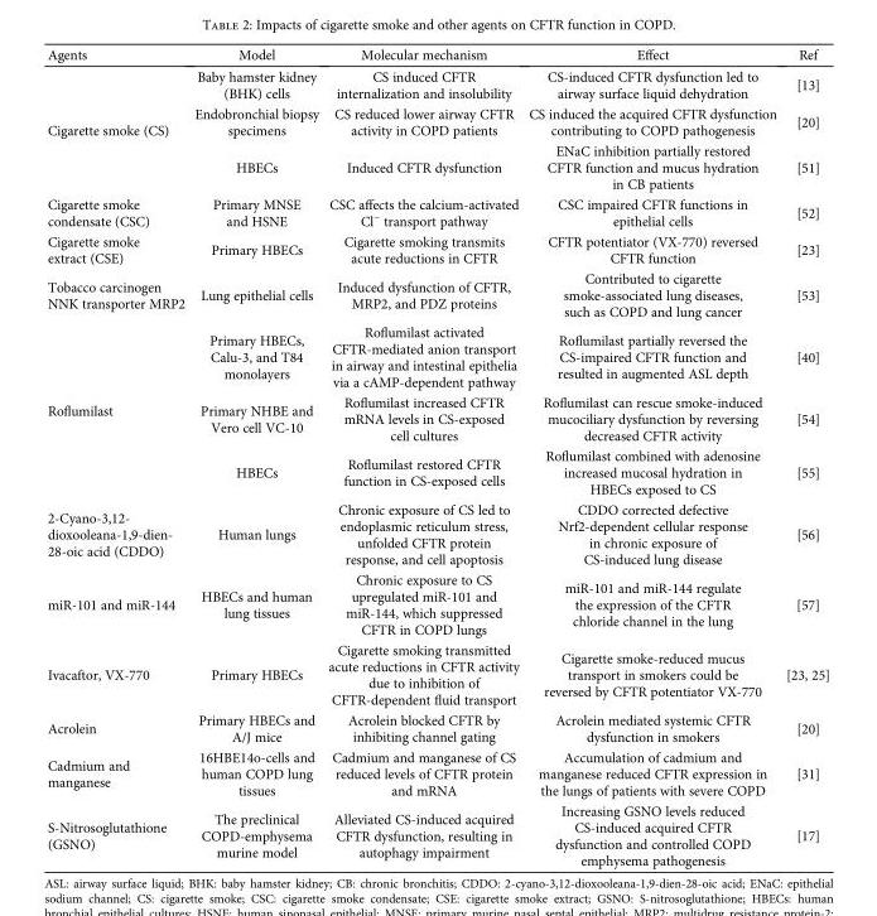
<table><thead><tr><td>Agents</td><td>Model</td><td>Molecular mechanism</td><td>Effect</td><td>Ref</td></tr></thead><tbody><tr><td rowspan="3">Cigarette smoke (CS)</td><td>Baby hamster kidney (BHK) cells</td><td>CS induced CFTR internalization and insolubility</td><td>CS-induced CFTR dysfunction led to airway surface liquid dehydration</td><td>[13]</td></tr><tr><td>Endobronchial biopsy specimens</td><td>CS reduced lower airway CFTR activity in COPD patients</td><td>CS induced the acquired CFTR dysfunction contributing to COPD pathogenesis</td><td>[20]</td></tr><tr><td>HBECs</td><td>Induced CFTR dysfunction</td><td>ENaC inhibition partially restored CFTR function and mucus hydration in CB patients</td><td>[51]</td></tr><tr><td>Cigarette smoke condensate (CSC)</td><td>Primary MNSE and HSNE</td><td>CSC affects the calcium-activated Cl<sup>−</sup> transport pathway</td><td>CSC impaired CFTR functions in epithelial cells</td><td>[52]</td></tr><tr><td>Cigarette smoke extract (CSE)</td><td>Primary HBECs</td><td>Cigarette smoking transmits acute reductions in CFTR</td><td>CFTR potentiator (VX-770) reversed CFTR function</td><td>[23]</td></tr><tr><td>Tobacco carcinogen NNK transporter MRP2</td><td>Lung epithelial cells</td><td>Induced dysfunction of CFTR, MRP2, and PDZ proteins</td><td>Contributed to cigarette smoke-associated lung diseases, such as COPD and lung cancer</td><td>[53]</td></tr><tr><td rowspan="3">Roflumilast</td><td>Primary HBECs, Calu-3, and T84 monolayers</td><td>Roflumilast activated CFTR-mediated anion transport in airway and intestinal epithelia via a cAMP-dependent pathway</td><td>Roflumilast partially reversed the CS-impaired CFTR function and resulted in augmented ASL depth</td><td>[40]</td></tr><tr><td>Primary NHBE and Vero cell VC-10</td><td>Roflumilast increased CFTR mRNA levels in CS-exposed cell cultures</td><td>Roflumilast can rescue smoke-induced mucociliary dysfunction by reversing decreased CFTR activity</td><td>[54]</td></tr><tr><td>HBECs</td><td>Roflumilast restored CFTR function in CS-exposed cells</td><td>Roflumilast combined with adenosine increased mucosal hydration in HBECs exposed to CS</td><td>[55]</td></tr><tr><td>2-Cyano-3,12- dioxooleana-1,9-dien- 28-oic acid (CDDO)</td><td>Human lungs</td><td>Chronic exposure of CS led to endoplasmic reticulum stress, unfolded CFTR protein response, and cell apoptosis</td><td>CDDO corrected defective Nrf2-dependent cellular response in chronic exposure of CS-induced lung disease</td><td>[56]</td></tr><tr><td>miR-101 and miR-144</td><td>HBECs and human lung tissues</td><td>Chronic exposure to CS upregulated miR-101 and miR-144, which suppressed CFTR in COPD lungs</td><td>miR-101 and miR-144 regulate the expression of the CFTR chloride channel in the lung</td><td>[57]</td></tr><tr><td>Ivacaftor, VX-770</td><td>Primary HBECs</td><td>Cigarette smoking transmitted acute reductions in CFTR activity due to inhibition of CFTR-dependent fluid transport</td><td>Cigarette smoke-reduced mucus transport in smokers could be reversed by CFTR potentiator VX-770</td><td>[23, 25]</td></tr><tr><td>Acrolein</td><td>Primary HBECs and A/J mice</td><td>Acrolein blocked CFTR by inhibiting channel gating</td><td>Acrolein mediated systemic CFTR dysfunction in smokers</td><td>[20]</td></tr><tr><td>Cadmium and manganese</td><td>16HBE14o-cells and human COPD lung tissues</td><td>Cadmium and manganese of CS reduced levels of CFTR protein and mRNA</td><td>Accumulation of cadmium and manganese reduced CFTR expression in the lungs of patients with severe COPD</td><td>[31]</td></tr><tr><td>S-Nitrosoglutathione (GSNO)</td><td>The preclinical COPD-emphysema murine model</td><td>Alleviated CS-induced acquired CFTR dysfunction, resulting in autophagy impairment</td><td>Increasing GSNO levels reduced CS-induced acquired CFTR dysfunction and controlled COPD emphysema pathogenesis</td><td>[17]</td></tr></tbody></table>